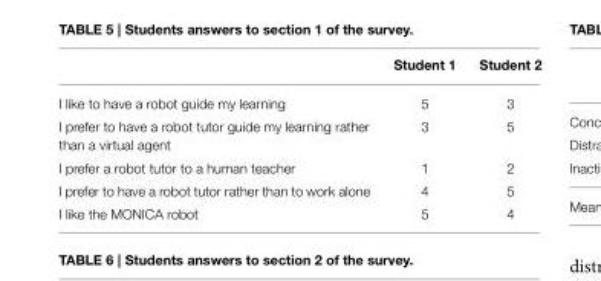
<table><thead><tr><td></td><td>Student 1</td><td>Student 2</td></tr></thead><tbody><tr><td>I like to have a robot guide my learning</td><td>5</td><td>3</td></tr><tr><td>I prefer to have a robot tutor guide my learning rather than a virtual agent</td><td>3</td><td>5</td></tr><tr><td>I prefer a robot tutor to a human teacher</td><td>1</td><td>2</td></tr><tr><td>I prefer to have a robot tutor rather than to work alone</td><td>4</td><td>5</td></tr><tr><td>I like the MONICA robot</td><td>5</td><td>4</td></tr></tbody></table>